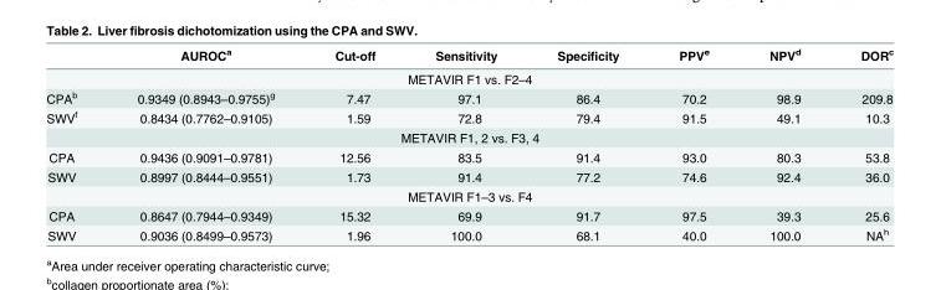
<table><thead><tr><td></td><td>AUROC<sup>a</sup></td><td>Cut-off</td><td>Sensitivity</td><td>Specificity</td><td>PPV<sup>e</sup></td><td>NPV<sup>d</sup></td><td>DOR<sup>c</sup></td></tr></thead><tbody><tr><td colspan="8">METAVIR F1 vs. F2–4</td></tr><tr><td>CPA<sup>b</sup></td><td>0.9349 (0.8943–0.9755)<sup>g</sup></td><td>7.47</td><td>97.1</td><td>86.4</td><td>70.2</td><td>98.9</td><td>209.8</td></tr><tr><td>SWV<sup>f</sup></td><td>0.8434 (0.7762–0.9105)</td><td>1.59</td><td>72.8</td><td>79.4</td><td>91.5</td><td>49.1</td><td>10.3</td></tr><tr><td colspan="8">METAVIR F1, 2 vs. F3, 4</td></tr><tr><td>CPA</td><td>0.9436 (0.9091–0.9781)</td><td>12.56</td><td>83.5</td><td>91.4</td><td>93.0</td><td>80.3</td><td>53.8</td></tr><tr><td>SWV</td><td>0.8997 (0.8444–0.9551)</td><td>1.73</td><td>91.4</td><td>77.2</td><td>74.6</td><td>92.4</td><td>36.0</td></tr><tr><td colspan="8">METAVIR F1–3 vs. F4</td></tr><tr><td>CPA</td><td>0.8647 (0.7944–0.9349)</td><td>15.32</td><td>69.9</td><td>91.7</td><td>97.5</td><td>39.3</td><td>25.6</td></tr><tr><td>SWV</td><td>0.9036 (0.8499–0.9573)</td><td>1.96</td><td>100.0</td><td>68.1</td><td>40.0</td><td>100.0</td><td>NA<sup>h</sup></td></tr></tbody></table>